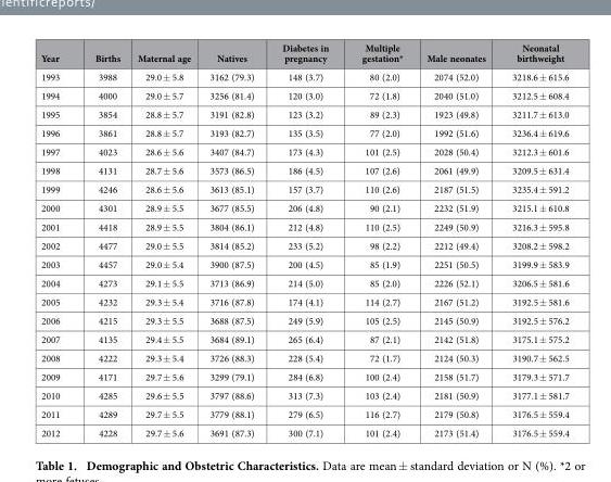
<table><thead><tr><td>Year</td><td>Births</td><td>Maternal age</td><td>Natives</td><td>Diabetes in pregnancy</td><td>Multiple gestation*</td><td>Male neonates</td><td>Neonatal birthweight</td></tr></thead><tbody><tr><td>1993</td><td>3988</td><td>29.0 ± 5.8</td><td>3162 (79.3)</td><td>148 (3.7)</td><td>80 (2.0)</td><td>2074 (52.0)</td><td>3218.6 ± 615.6</td></tr><tr><td>1994</td><td>4000</td><td>29.0 ± 5.7</td><td>3256 (81.4)</td><td>120 (3.0)</td><td>72 (1.8)</td><td>2040 (51.0)</td><td>3212.5 ± 608.4</td></tr><tr><td>1995</td><td>3854</td><td>28.8 ± 5.7</td><td>3191 (82.8)</td><td>123 (3.2)</td><td>89 (2.3)</td><td>1923 (49.8)</td><td>3211.7 ± 613.0</td></tr><tr><td>1996</td><td>3861</td><td>28.8 ± 5.7</td><td>3193 (82.7)</td><td>135 (3.5)</td><td>77 (2.0)</td><td>1992 (51.6)</td><td>3236.4 ± 619.6</td></tr><tr><td>1997</td><td>4023</td><td>28.6 ± 5.6</td><td>3407 (84.7)</td><td>173 (4.3)</td><td>101 (2.5)</td><td>2028 (50.4)</td><td>3212.3 ± 601.6</td></tr><tr><td>1998</td><td>4131</td><td>28.7 ± 5.6</td><td>3573 (86.5)</td><td>186 (4.5)</td><td>107 (2.6)</td><td>2061 (49.9)</td><td>3209.5 ± 631.4</td></tr><tr><td>1999</td><td>4246</td><td>28.6 ± 5.6</td><td>3613 (85.1)</td><td>157 (3.7)</td><td>110 (2.6)</td><td>2187 (51.5)</td><td>3235.4 ± 591.2</td></tr><tr><td>2000</td><td>4301</td><td>28.9 ± 5.5</td><td>3677 (85.5)</td><td>206 (4.8)</td><td>90 (2.1)</td><td>2232 (51.9)</td><td>3215.1 ± 610.8</td></tr><tr><td>2001</td><td>4418</td><td>28.9 ± 5.5</td><td>3804 (86.1)</td><td>212 (4.8)</td><td>110 (2.5)</td><td>2249 (50.9)</td><td>3216.3 ± 595.8</td></tr><tr><td>2002</td><td>4477</td><td>29.0 ± 5.5</td><td>3814 (85.2)</td><td>233 (5.2)</td><td>98 (2.2)</td><td>2212 (49.4)</td><td>3208.2 ± 598.2</td></tr><tr><td>2003</td><td>4457</td><td>29.0 ± 5.4</td><td>3900 (87.5)</td><td>200 (4.5)</td><td>85 (1.9)</td><td>2251 (50.5)</td><td>3199.9 ± 583.9</td></tr><tr><td>2004</td><td>4273</td><td>29.1 ± 5.5</td><td>3713 (86.9)</td><td>214 (5.0)</td><td>85 (2.0)</td><td>2226 (52.1)</td><td>3206.5 ± 581.6</td></tr><tr><td>2005</td><td>4232</td><td>29.3 ± 5.4</td><td>3716 (87.8)</td><td>174 (4.1)</td><td>114 (2.7)</td><td>2167 (51.2)</td><td>3192.5 ± 581.6</td></tr><tr><td>2006</td><td>4215</td><td>29.3 ± 5.5</td><td>3688 (87.5)</td><td>249 (5.9)</td><td>105 (2.5)</td><td>2145 (50.9)</td><td>3192.5 ± 576.2</td></tr><tr><td>2007</td><td>4135</td><td>29.4 ± 5.5</td><td>3684 (89.1)</td><td>265 (6.4)</td><td>87 (2.1)</td><td>2142 (51.8)</td><td>3175.1 ± 575.2</td></tr><tr><td>2008</td><td>4222</td><td>29.3 ± 5.4</td><td>3726 (88.3)</td><td>228 (5.4)</td><td>72 (1.7)</td><td>2124 (50.3)</td><td>3190.7 ± 562.5</td></tr><tr><td>2009</td><td>4171</td><td>29.7 ± 5.6</td><td>3299 (79.1)</td><td>284 (6.8)</td><td>100 (2.4)</td><td>2158 (51.7)</td><td>3179.3 ± 571.7</td></tr><tr><td>2010</td><td>4285</td><td>29.6 ± 5.5</td><td>3797 (88.6)</td><td>313 (7.3)</td><td>103 (2.4)</td><td>2181 (50.9)</td><td>3177.1 ± 581.7</td></tr><tr><td>2011</td><td>4289</td><td>29.7 ± 5.5</td><td>3779 (88.1)</td><td>279 (6.5)</td><td>116 (2.7)</td><td>2179 (50.8)</td><td>3176.5 ± 559.4</td></tr><tr><td>2012</td><td>4228</td><td>29.7 ± 5.6</td><td>3691 (87.3)</td><td>300 (7.1)</td><td>101 (2.4)</td><td>2173 (51.4)</td><td>3176.5 ± 559.4</td></tr></tbody></table>